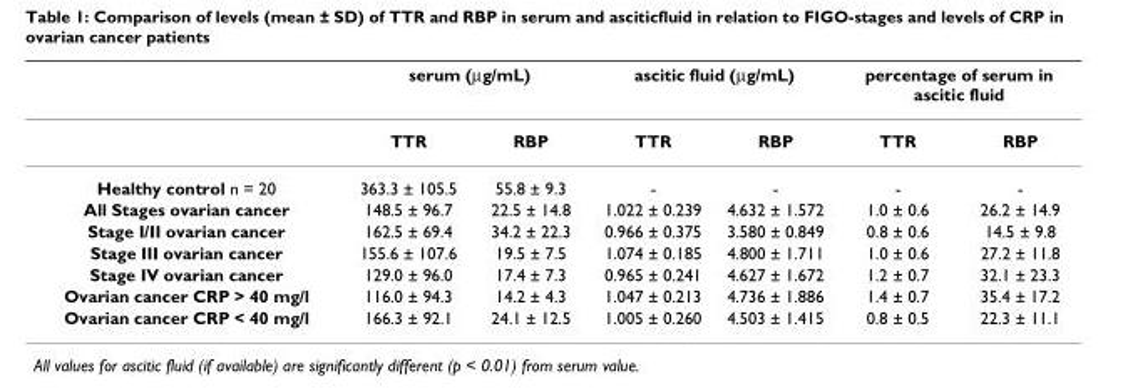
<table><thead><tr><td rowspan="2"></td><td colspan="2">serum (µg/mL)</td><td colspan="2">ascitic fluid (µg/mL)</td><td colspan="2">percentage of serum in ascitic fluid</td></tr><tr><td>TTR</td><td>RBP</td><td>TTR</td><td>RBP</td><td>TTR</td><td>RBP</td></tr></thead><tbody><tr><td>Healthy control n = 20</td><td>363.3 ± 105.5</td><td>55.8 ± 9.3</td><td>-</td><td>-</td><td>-</td><td>-</td></tr><tr><td>All Stages ovarian cancer</td><td>148.5 ± 96.7</td><td>22.5 ± 14.8</td><td>1.022 ± 0.239</td><td>4.632 ± 1.572</td><td>1.0 ± 0.6</td><td>26.2 ± 14.9</td></tr><tr><td>Stage I/II ovarian cancer</td><td>162.5 ± 69.4</td><td>34.2 ± 22.3</td><td>0.966 ± 0.375</td><td>3.580 ± 0.849</td><td>0.8 ± 0.6</td><td>14.5 ± 9.8</td></tr><tr><td>Stage III ovarian cancer</td><td>155.6 ± 107.6</td><td>19.5 ± 7.5</td><td>1.074 ± 0.185</td><td>4.800 ± 1.711</td><td>1.0 ± 0.6</td><td>27.2 ± 11.8</td></tr><tr><td>Stage IV ovarian cancer</td><td>129.0 ± 96.0</td><td>17.4 ± 7.3</td><td>0.965 ± 0.241</td><td>4.627 ± 1.672</td><td>1.2 ± 0.7</td><td>32.1 ± 23.3</td></tr><tr><td>Ovarian cancer CRP &gt; 40 mg/l</td><td>116.0 ± 94.3</td><td>14.2 ± 4.3</td><td>1.047 ± 0.213</td><td>4.736 ± 1.886</td><td>1.4 ± 0.7</td><td>35.4 ± 17.2</td></tr><tr><td>Ovarian cancer CRP &lt; 40 mg/l</td><td>166.3 ± 92.1</td><td>24.1 ± 12.5</td><td>1.005 ± 0.260</td><td>4.503 ± 1.415</td><td>0.8 ± 0.5</td><td>22.3 ± 11.1</td></tr></tbody></table>